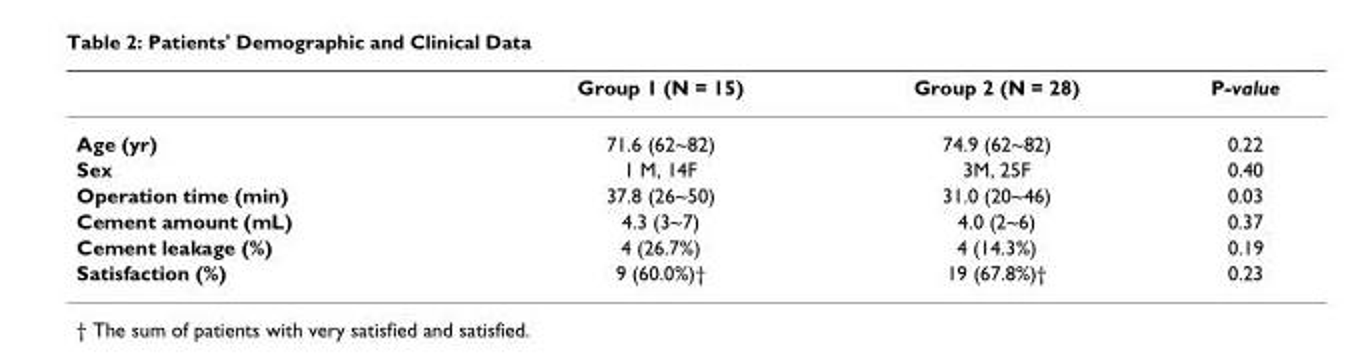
<table><thead><tr><td></td><td>Group 1 (N = 15)</td><td>Group 2 (N = 28)</td><td>P-value</td></tr></thead><tbody><tr><td>Age (yr)</td><td>71.6 (62~82)</td><td>74.9 (62~82)</td><td>0.22</td></tr><tr><td>Sex</td><td>1 M, 14F</td><td>3M, 25F</td><td>0.40</td></tr><tr><td>Operation time (min)</td><td>37.8 (26~50)</td><td>31.0 (20~46)</td><td>0.03</td></tr><tr><td>Cement amount (mL)</td><td>4.3 (3~7)</td><td>4.0 (2~6)</td><td>0.37</td></tr><tr><td>Cement leakage (%)</td><td>4 (26.7%)</td><td>4 (14.3%)</td><td>0.19</td></tr><tr><td>Satisfaction (%)</td><td>9 (60.0%)†</td><td>19 (67.8%)†</td><td>0.23</td></tr></tbody></table>